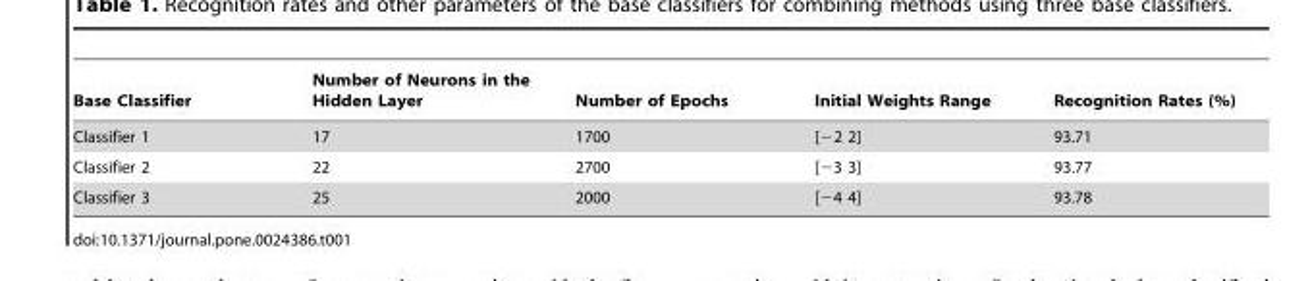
<table><thead><tr><td>Base Classifier</td><td>Number of Neurons in the Hidden Layer</td><td>Number of Epochs</td><td>Initial Weights Range</td><td>Recognition Rates (%)</td></tr></thead><tbody><tr><td>Classifier 1</td><td>17</td><td>1700</td><td>[−2 2]</td><td>93.71</td></tr><tr><td>Classifier 2</td><td>22</td><td>2700</td><td>[−3 3]</td><td>93.77</td></tr><tr><td>Classifier 3</td><td>25</td><td>2000</td><td>[−4 4]</td><td>93.78</td></tr></tbody></table>